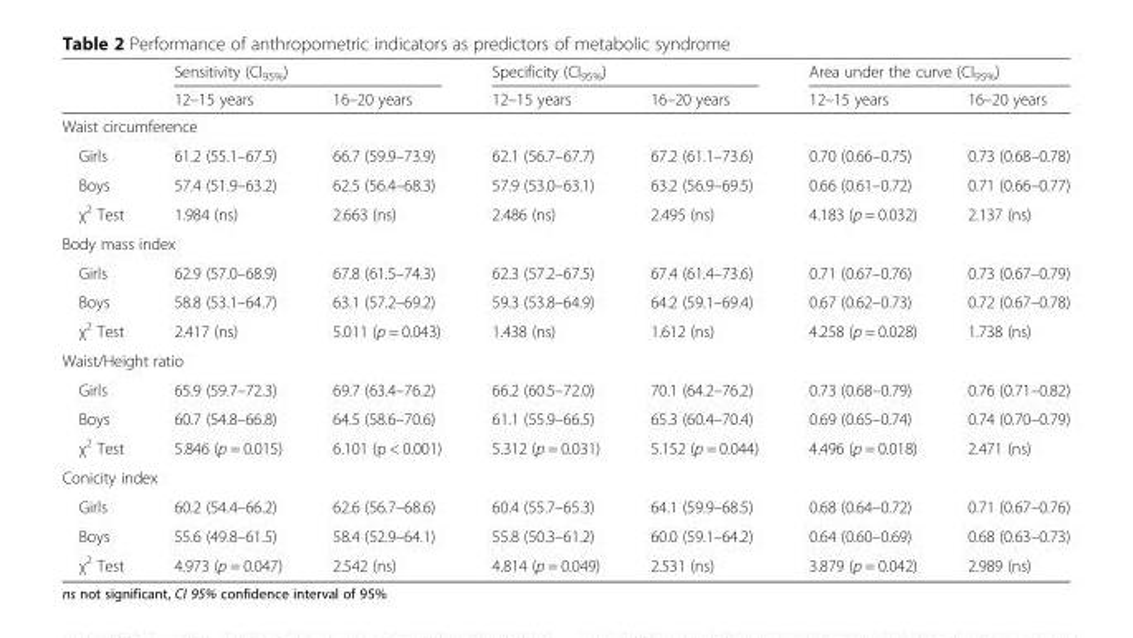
<table><thead><tr><td rowspan="2"></td><td colspan="2">Sensitivity (CI<sub>95%</sub>)</td><td colspan="2">Specificity (CI<sub>95%</sub>)</td><td colspan="2">Area under the curve (CI<sub>95%</sub>)</td></tr><tr><td>12–15 years</td><td>16–20 years</td><td>12–15 years</td><td>16–20 years</td><td>12–15 years</td><td>16–20 years</td></tr></thead><tbody><tr><td colspan="7">Waist circumference</td></tr><tr><td>Girls</td><td>61.2 (55.1–67.5)</td><td>66.7 (59.9–73.9)</td><td>62.1 (56.7–67.7)</td><td>67.2 (61.1–73.6)</td><td>0.70 (0.66–0.75)</td><td>0.73 (0.68–0.78)</td></tr><tr><td>Boys</td><td>57.4 (51.9–63.2)</td><td>62.5 (56.4–68.3)</td><td>57.9 (53.0–63.1)</td><td>63.2 (56.9–69.5)</td><td>0.66 (0.61–0.72)</td><td>0.71 (0.66–0.77)</td></tr><tr><td>χ<sup>2</sup> Test</td><td>1.984 (ns)</td><td>2.663 (ns)</td><td>2.486 (ns)</td><td>2.495 (ns)</td><td>4.183 (p = 0.032)</td><td>2.137 (ns)</td></tr><tr><td colspan="7">Body mass index</td></tr><tr><td>Girls</td><td>62.9 (57.0–68.9)</td><td>67.8 (61.5–74.3)</td><td>62.3 (57.2–67.5)</td><td>67.4 (61.4–73.6)</td><td>0.71 (0.67–0.76)</td><td>0.73 (0.67–0.79)</td></tr><tr><td>Boys</td><td>58.8 (53.1–64.7)</td><td>63.1 (57.2–69.2)</td><td>59.3 (53.8–64.9)</td><td>64.2 (59.1–69.4)</td><td>0.67 (0.62–0.73)</td><td>0.72 (0.67–0.78)</td></tr><tr><td>χ<sup>2</sup> Test</td><td>2.417 (ns)</td><td>5.011 (p = 0.043)</td><td>1.438 (ns)</td><td>1.612 (ns)</td><td>4.258 (p = 0.028)</td><td>1.738 (ns)</td></tr><tr><td colspan="7">Waist/Height ratio</td></tr><tr><td>Girls</td><td>65.9 (59.7–72.3)</td><td>69.7 (63.4–76.2)</td><td>66.2 (60.5–72.0)</td><td>70.1 (64.2–76.2)</td><td>0.73 (0.68–0.79)</td><td>0.76 (0.71–0.82)</td></tr><tr><td>Boys</td><td>60.7 (54.8–66.8)</td><td>64.5 (58.6–70.6)</td><td>61.1 (55.9–66.5)</td><td>65.3 (60.4–70.4)</td><td>0.69 (0.65–0.74)</td><td>0.74 (0.70–0.79)</td></tr><tr><td>χ<sup>2</sup> Test</td><td>5.846 (p = 0.015)</td><td>6.101 (p &lt; 0.001)</td><td>5.312 (p = 0.031)</td><td>5.152 (p = 0.044)</td><td>4.496 (p = 0.018)</td><td>2.471 (ns)</td></tr><tr><td colspan="7">Conicity index</td></tr><tr><td>Girls</td><td>60.2 (54.4–66.2)</td><td>62.6 (56.7–68.6)</td><td>60.4 (55.7–65.3)</td><td>64.1 (59.9–68.5)</td><td>0.68 (0.64–0.72)</td><td>0.71 (0.67–0.76)</td></tr><tr><td>Boys</td><td>55.6 (49.8–61.5)</td><td>58.4 (52.9–64.1)</td><td>55.8 (50.3–61.2)</td><td>60.0 (59.1–64.2)</td><td>0.64 (0.60–0.69)</td><td>0.68 (0.63–0.73)</td></tr><tr><td>χ<sup>2</sup> Test</td><td>4.973 (p = 0.047)</td><td>2.542 (ns)</td><td>4.814 (p = 0.049)</td><td>2.531 (ns)</td><td>3.879 (p = 0.042)</td><td>2.989 (ns)</td></tr></tbody></table>